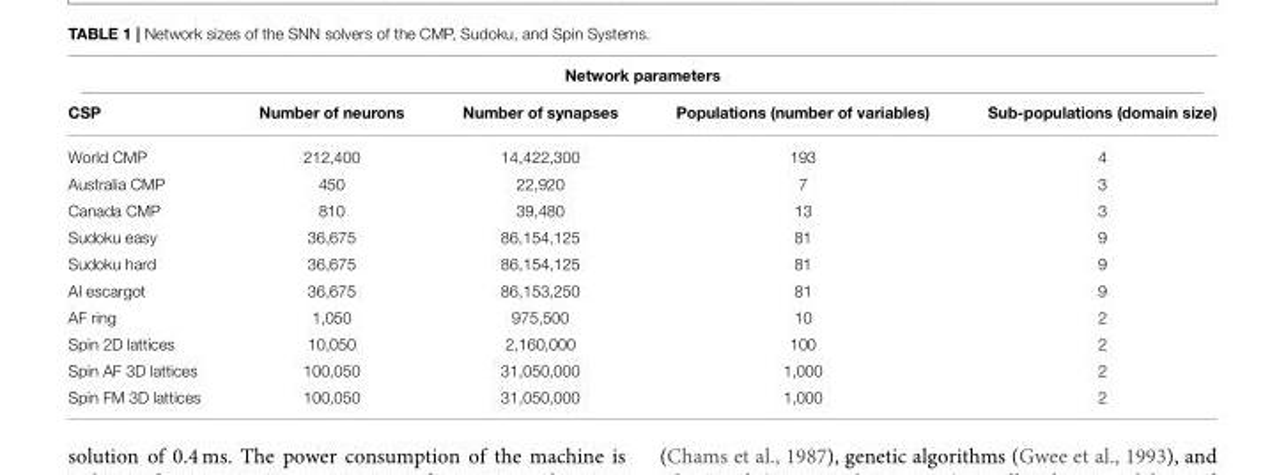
<table><thead><tr><td colspan="5">Network parameters</td></tr><tr><td>CSP</td><td>Number of neurons</td><td>Number of synapses</td><td>Populations (number of variables)</td><td>Sub-populations (domain size)</td></tr></thead><tbody><tr><td>World CMP</td><td>212,400</td><td>14,422,300</td><td>193</td><td>4</td></tr><tr><td>Australia CMP</td><td>450</td><td>22,920</td><td>7</td><td>3</td></tr><tr><td>Canada CMP</td><td>810</td><td>39,480</td><td>13</td><td>3</td></tr><tr><td>Sudoku easy</td><td>36,675</td><td>86,154,125</td><td>81</td><td>9</td></tr><tr><td>Sudoku hard</td><td>36,675</td><td>86,154,125</td><td>81</td><td>9</td></tr><tr><td>AI escargot</td><td>36,675</td><td>86,153,250</td><td>81</td><td>9</td></tr><tr><td>AF ring</td><td>1,050</td><td>975,500</td><td>10</td><td>2</td></tr><tr><td>Spin 2D lattices</td><td>10,050</td><td>2,160,000</td><td>100</td><td>2</td></tr><tr><td>Spin AF 3D lattices</td><td>100,050</td><td>31,050,000</td><td>1,000</td><td>2</td></tr><tr><td>Spin FM 3D lattices</td><td>100,050</td><td>31,050,000</td><td>1,000</td><td>2</td></tr></tbody></table>